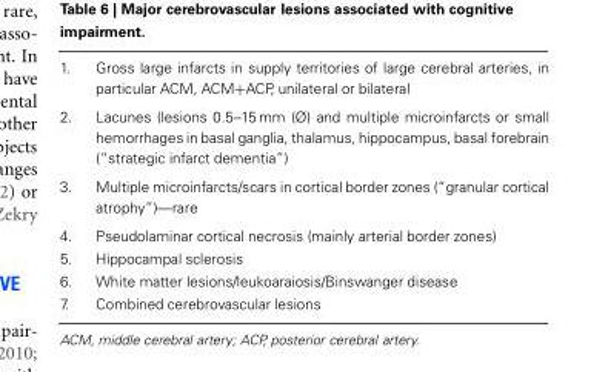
<table><tbody><tr><td>1.</td><td>Gross large infarcts in supply territories of large cerebral arteries, in particular ACM, ACM+ACP, unilateral or bilateral</td></tr><tr><td>2.</td><td>Lacunes (lesions 0.5–15 mm (Ø) and multiple microinfarcts or small hemorrhages in basal ganglia, thalamus, hippocampus, basal forebrain (“strategic infarct dementia”)</td></tr><tr><td>3.</td><td>Multiple microinfarcts/scars in cortical border zones (“granular cortical atrophy”)—rare</td></tr><tr><td>4.</td><td>Pseudolaminar cortical necrosis (mainly arterial border zones)</td></tr><tr><td>5.</td><td>Hippocampal sclerosis</td></tr><tr><td>6.</td><td>White matter lesions/leukoaraiosis/Binswanger disease</td></tr><tr><td>7.</td><td>Combined cerebrovascular lesions</td></tr></tbody></table>